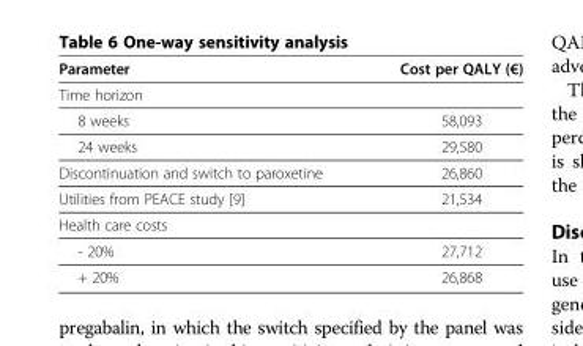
<table><thead><tr><td>Parameter</td><td>Cost per QALY (€)</td></tr></thead><tbody><tr><td colspan="2">Time horizon</td></tr><tr><td>8 weeks</td><td>58,093</td></tr><tr><td>24 weeks</td><td>29,580</td></tr><tr><td>Discontinuation and switch to paroxetine</td><td>26,860</td></tr><tr><td>Utilities from PEACE study [9]</td><td>21,534</td></tr><tr><td colspan="2">Health care costs</td></tr><tr><td>- 20%</td><td>27,712</td></tr><tr><td>+ 20%</td><td>26,868</td></tr></tbody></table>